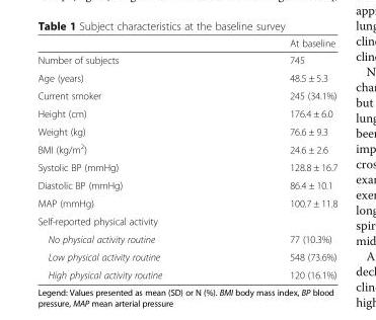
<table><thead><tr><td></td><td>At baseline</td></tr></thead><tbody><tr><td>Number of subjects</td><td>745</td></tr><tr><td>Age (years)</td><td>48.5 ± 5.3</td></tr><tr><td>Current smoker</td><td>245 (34.1%)</td></tr><tr><td>Height (cm)</td><td>176.4 ± 6.0</td></tr><tr><td>Weight (kg)</td><td>76.6 ± 9.3</td></tr><tr><td>BMI (kg/m<sup>2</sup>)</td><td>24.6 ± 2.6</td></tr><tr><td>Systolic BP (mmHg)</td><td>128.8 ± 16.7</td></tr><tr><td>Diastolic BP (mmHg)</td><td>86.4 ± 10.1</td></tr><tr><td>MAP (mmHg)</td><td>100.7 ± 11.8</td></tr><tr><td colspan="2">Self-reported physical activity</td></tr><tr><td>No physical activity routine</td><td>77 (10.3%)</td></tr><tr><td>Low physical activity routine</td><td>548 (73.6%)</td></tr><tr><td>High physical activity routine</td><td>120 (16.1%)</td></tr></tbody></table>